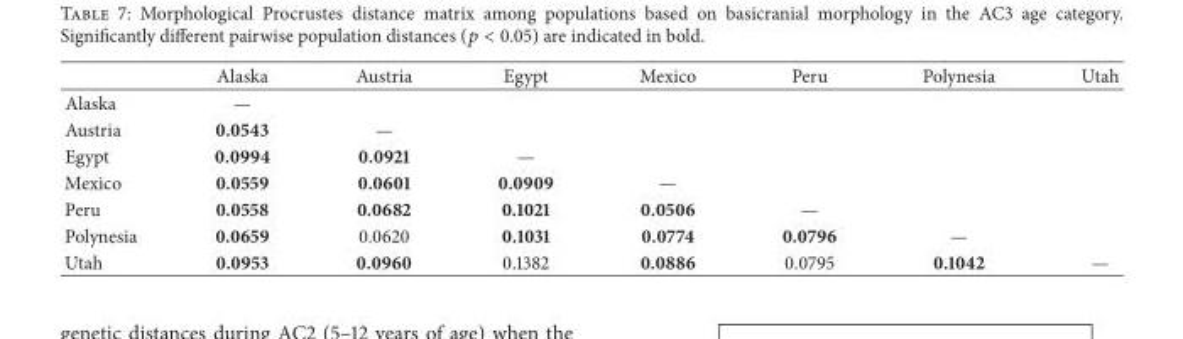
<table><thead><tr><td></td><td>Alaska</td><td>Austria</td><td>Egypt</td><td>Mexico</td><td>Peru</td><td>Polynesia</td><td>Utah</td></tr></thead><tbody><tr><td>Alaska</td><td>—</td><td></td><td></td><td></td><td></td><td></td><td></td></tr><tr><td>Austria</td><td>0.0543</td><td>—</td><td></td><td></td><td></td><td></td><td></td></tr><tr><td>Egypt</td><td>0.0994</td><td>0.0921</td><td>—</td><td></td><td></td><td></td><td></td></tr><tr><td>Mexico</td><td>0.0559</td><td>0.0601</td><td>0.0909</td><td>—</td><td></td><td></td><td></td></tr><tr><td>Peru</td><td>0.0558</td><td>0.0682</td><td>0.1021</td><td>0.0506</td><td>—</td><td></td><td></td></tr><tr><td>Polynesia</td><td>0.0659</td><td>0.0620</td><td>0.1031</td><td>0.0774</td><td>0.0796</td><td>—</td><td></td></tr><tr><td>Utah</td><td>0.0953</td><td>0.0960</td><td>0.1382</td><td>0.0886</td><td>0.0795</td><td>0.1042</td><td>—</td></tr></tbody></table>